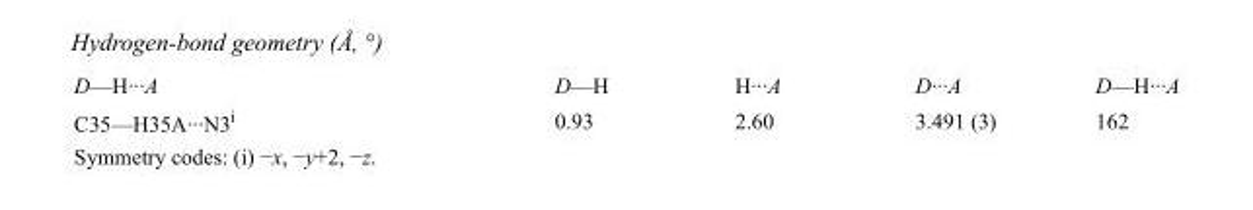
<table><tbody><tr><td>D—H···A</td><td>D—H</td><td>H···A</td><td>D···A</td><td>D—H···A</td></tr><tr><td>C35—H35A···N3<sup>i</sup></td><td>0.93</td><td>2.60</td><td>3.491 (3)</td><td>162</td></tr></tbody></table>